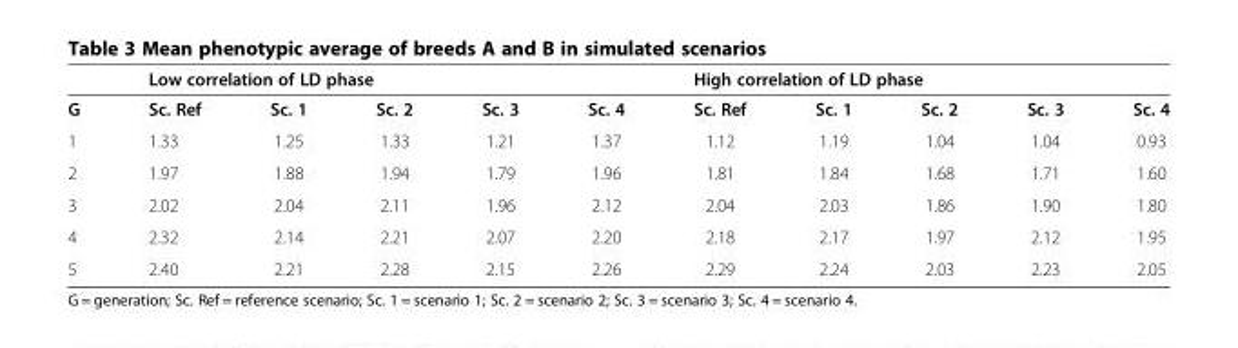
<table><thead><tr><td rowspan="2">G</td><td colspan="5">Low correlation of LD phase</td><td colspan="5">High correlation of LD phase</td></tr><tr><td>Sc. Ref</td><td>Sc. 1</td><td>Sc. 2</td><td>Sc. 3</td><td>Sc. 4</td><td>Sc. Ref</td><td>Sc. 1</td><td>Sc. 2</td><td>Sc. 3</td><td>Sc. 4</td></tr></thead><tbody><tr><td>1</td><td>1.33</td><td>1.25</td><td>1.33</td><td>1.21</td><td>1.37</td><td>1.12</td><td>1.19</td><td>1.04</td><td>1.04</td><td>0.93</td></tr><tr><td>2</td><td>1.97</td><td>1.88</td><td>1.94</td><td>1.79</td><td>1.96</td><td>1.81</td><td>1.84</td><td>1.68</td><td>1.71</td><td>1.60</td></tr><tr><td>3</td><td>2.02</td><td>2.04</td><td>2.11</td><td>1.96</td><td>2.12</td><td>2.04</td><td>2.03</td><td>1.86</td><td>1.90</td><td>1.80</td></tr><tr><td>4</td><td>2.32</td><td>2.14</td><td>2.21</td><td>2.07</td><td>2.20</td><td>2.18</td><td>2.17</td><td>1.97</td><td>2.12</td><td>1.95</td></tr><tr><td>5</td><td>2.40</td><td>2.21</td><td>2.28</td><td>2.15</td><td>2.26</td><td>2.29</td><td>2.24</td><td>2.03</td><td>2.23</td><td>2.05</td></tr></tbody></table>